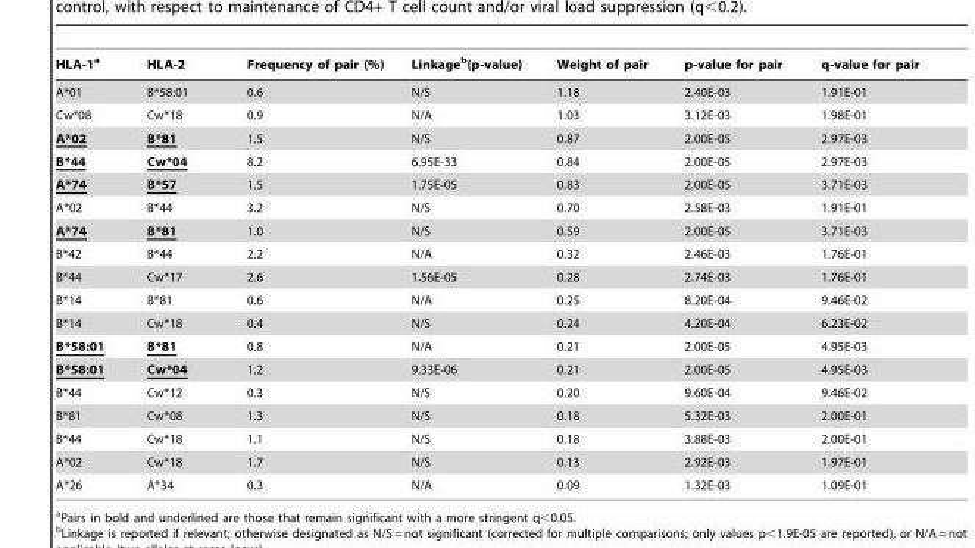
<table><thead><tr><td>HLA-1<sup>a</sup></td><td>HLA-2</td><td>Frequency of pair (%)</td><td>Linkage<sup>b</sup>(p-value)</td><td>Weight of pair</td><td>p-value for pair</td><td>q-value for pair</td></tr></thead><tbody><tr><td>A*01</td><td>B*58:01</td><td>0.6</td><td>N/S</td><td>1.18</td><td>2.40E-03</td><td>1.91E-01</td></tr><tr><td>Cw*08</td><td>Cw*18</td><td>0.9</td><td>N/A</td><td>1.03</td><td>3.12E-03</td><td>1.98E-01</td></tr><tr><td>A*02</td><td>B*81</td><td>1.5</td><td>N/S</td><td>0.87</td><td>2.00E-05</td><td>2.97E-03</td></tr><tr><td>B*44</td><td>Cw*04</td><td>8.2</td><td>6.95E-33</td><td>0.84</td><td>2.00E-05</td><td>2.97E-03</td></tr><tr><td>A*74</td><td>B*57</td><td>1.5</td><td>1.75E-05</td><td>0.83</td><td>2.00E-05</td><td>3.71E-03</td></tr><tr><td>A*02</td><td>B*44</td><td>3.2</td><td>N/S</td><td>0.70</td><td>2.58E-03</td><td>1.91E-01</td></tr><tr><td>A*74</td><td>B*81</td><td>1.0</td><td>N/S</td><td>0.59</td><td>2.00E-05</td><td>3.71E-03</td></tr><tr><td>B*42</td><td>B*44</td><td>2.2</td><td>N/A</td><td>0.32</td><td>2.46E-03</td><td>1.76E-01</td></tr><tr><td>B*44</td><td>Cw*17</td><td>2.6</td><td>1.56E-05</td><td>0.28</td><td>2.74E-03</td><td>1.76E-01</td></tr><tr><td>B*14</td><td>B*81</td><td>0.6</td><td>N/A</td><td>0.25</td><td>8.20E-04</td><td>9.46E-02</td></tr><tr><td>B*14</td><td>Cw*18</td><td>0.4</td><td>N/S</td><td>0.24</td><td>4.20E-04</td><td>6.23E-02</td></tr><tr><td>B*58:01</td><td>B*81</td><td>0.8</td><td>N/A</td><td>0.21</td><td>2.00E-05</td><td>4.95E-03</td></tr><tr><td>B*58:01</td><td>Cw*04</td><td>1.2</td><td>9.33E-06</td><td>0.21</td><td>2.00E-05</td><td>4.95E-03</td></tr><tr><td>B*44</td><td>Cw*12</td><td>0.3</td><td>N/S</td><td>0.20</td><td>9.60E-04</td><td>9.46E-02</td></tr><tr><td>B*81</td><td>Cw*08</td><td>1.3</td><td>N/S</td><td>0.18</td><td>5.32E-03</td><td>2.00E-01</td></tr><tr><td>B*44</td><td>Cw*18</td><td>1.1</td><td>N/S</td><td>0.18</td><td>3.88E-03</td><td>2.00E-01</td></tr><tr><td>A*02</td><td>Cw*18</td><td>1.7</td><td>N/S</td><td>0.13</td><td>2.92E-03</td><td>1.97E-01</td></tr><tr><td>A*26</td><td>A*34</td><td>0.3</td><td>N/A</td><td>0.09</td><td>1.32E-03</td><td>1.09E-01</td></tr></tbody></table>